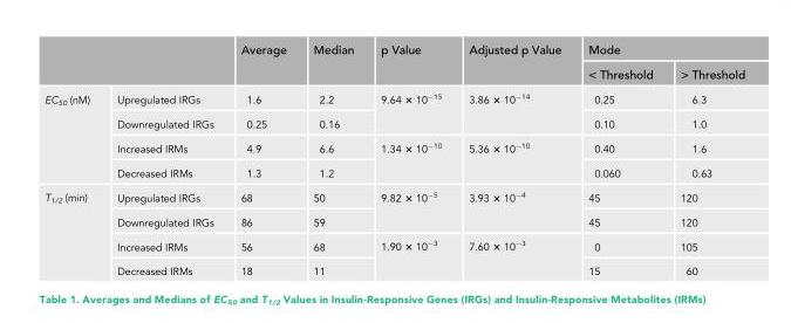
<table><thead><tr><td rowspan="2"></td><td rowspan="2"></td><td rowspan="2">Average</td><td rowspan="2">Median</td><td rowspan="2">p Value</td><td rowspan="2">Adjusted p Value</td><td colspan="2">Mode</td></tr><tr><td>&lt; Threshold</td><td>&gt; Threshold</td></tr></thead><tbody><tr><td rowspan="4">EC<sub>50</sub> (nM)</td><td>Upregulated IRGs</td><td>1.6</td><td>2.2</td><td rowspan="2">9.64 × 10<sup>−15</sup></td><td rowspan="2">3.86 × 10<sup>−14</sup></td><td>0.25</td><td>6.3</td></tr><tr><td>Downregulated IRGs</td><td>0.25</td><td>0.16</td><td>0.10</td><td>1.0</td></tr><tr><td>Increased IRMs</td><td>4.9</td><td>6.6</td><td rowspan="2">1.34 × 10<sup>−10</sup></td><td rowspan="2">5.36 × 10<sup>−10</sup></td><td>0.40</td><td>1.6</td></tr><tr><td>Decreased IRMs</td><td>1.3</td><td>1.2</td><td>0.060</td><td>0.63</td></tr><tr><td rowspan="4">T<sub>1/2</sub> (min)</td><td>Upregulated IRGs</td><td>68</td><td>50</td><td rowspan="2">9.82 × 10<sup>−5</sup></td><td rowspan="2">3.93 × 10<sup>−4</sup></td><td>45</td><td>120</td></tr><tr><td>Downregulated IRGs</td><td>86</td><td>59</td><td>45</td><td>120</td></tr><tr><td>Increased IRMs</td><td>56</td><td>68</td><td rowspan="2">1.90 × 10<sup>−3</sup></td><td rowspan="2">7.60 × 10<sup>−3</sup></td><td>0</td><td>105</td></tr><tr><td>Decreased IRMs</td><td>18</td><td>11</td><td>15</td><td>60</td></tr></tbody></table>